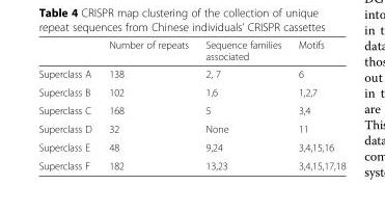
<table><thead><tr><td></td><td>Number of repeats</td><td>Sequence families associated</td><td>Motifs</td></tr></thead><tbody><tr><td>Superclass A</td><td>138</td><td>2, 7</td><td>6</td></tr><tr><td>Superclass B</td><td>102</td><td>1,6</td><td>1,2,7</td></tr><tr><td>Superclass C</td><td>168</td><td>5</td><td>3,4</td></tr><tr><td>Superclass D</td><td>32</td><td>None</td><td>11</td></tr><tr><td>Superclass E</td><td>48</td><td>9,24</td><td>3,4,15,16</td></tr><tr><td>Superclass F</td><td>182</td><td>13,23</td><td>3,4,15,17,18</td></tr></tbody></table>